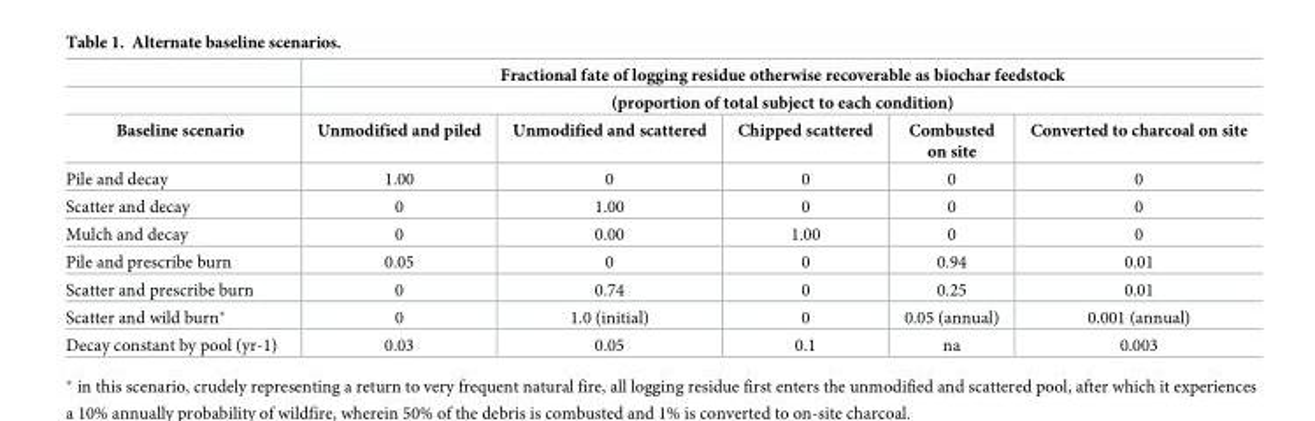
<table><thead><tr><td rowspan="3">Baseline scenario</td><td rowspan="2" colspan="5">Fractional fate of logging residue otherwise recoverable as biochar feedstock (proportion of total subject to each condition)</td></tr><tr></tr><tr><td>Unmodified and piled</td><td>Unmodified and scattered</td><td>Chipped scattered</td><td>Combusted on site</td><td>Converted to charcoal on site</td></tr></thead><tbody><tr><td>Pile and decay</td><td>1.00</td><td>0</td><td>0</td><td>0</td><td>0</td></tr><tr><td>Scatter and decay</td><td>0</td><td>1.00</td><td>0</td><td>0</td><td>0</td></tr><tr><td>Mulch and decay</td><td>0</td><td>0.00</td><td>1.00</td><td>0</td><td>0</td></tr><tr><td>Pile and prescribe burn</td><td>0.05</td><td>0</td><td>0</td><td>0.94</td><td>0.01</td></tr><tr><td>Scatter and prescribe burn</td><td>0</td><td>0.74</td><td>0</td><td>0.25</td><td>0.01</td></tr><tr><td>Scatter and wild burn*</td><td>0</td><td>1.0 (initial)</td><td>0</td><td>0.05 (annual)</td><td>0.001 (annual)</td></tr><tr><td>Decay constant by pool (yr-1)</td><td>0.03</td><td>0.05</td><td>0.1</td><td>na</td><td>0.003</td></tr></tbody></table>